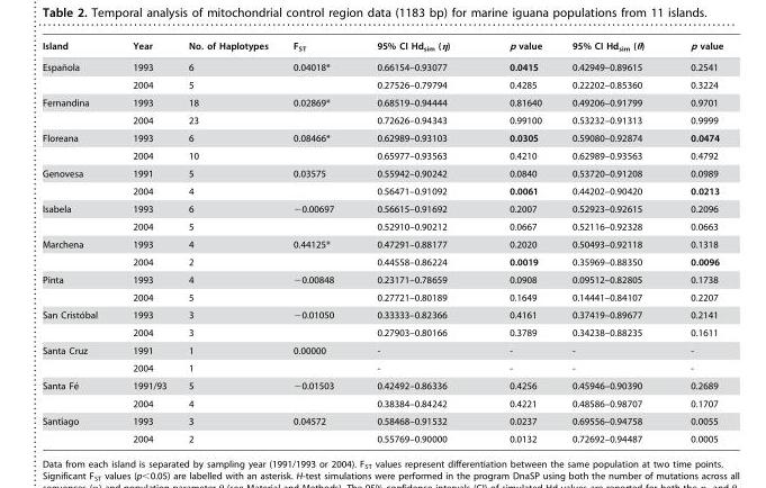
<table><thead><tr><td>Island</td><td>Year</td><td>No. of Haplotypes</td><td>F<sub>ST</sub></td><td>95% CI Hd<sub>sim</sub> (η)</td><td>p value</td><td>95% CI Hd<sub>sim</sub> (θ)</td><td>p value</td></tr></thead><tbody><tr><td rowspan="2">Espan˜ola</td><td>1993</td><td>6</td><td>0.04018*</td><td>0.66154–0.93077</td><td>0.0415</td><td>0.42949–0.89615</td><td>0.2541</td></tr><tr><td>2004</td><td>5</td><td></td><td>0.27526–0.79794</td><td>0.4285</td><td>0.22202–0.85360</td><td>0.3224</td></tr><tr><td rowspan="2">Fernandina</td><td>1993</td><td>18</td><td>0.02869*</td><td>0.68519–0.94444</td><td>0.81640</td><td>0.49206–0.91799</td><td>0.9701</td></tr><tr><td>2004</td><td>23</td><td></td><td>0.72626–0.94343</td><td>0.99100</td><td>0.53232–0.91313</td><td>0.9999</td></tr><tr><td rowspan="2">Floreana</td><td>1993</td><td>6</td><td>0.08466*</td><td>0.62989–0.93103</td><td>0.0305</td><td>0.59080–0.92874</td><td>0.0474</td></tr><tr><td>2004</td><td>10</td><td></td><td>0.65977–0.93563</td><td>0.4210</td><td>0.62989–0.93563</td><td>0.4792</td></tr><tr><td rowspan="2">Genovesa</td><td>1991</td><td>5</td><td>0.03575</td><td>0.55942–0.90242</td><td>0.0840</td><td>0.53720–0.91208</td><td>0.0989</td></tr><tr><td>2004</td><td>4</td><td></td><td>0.56471–0.91092</td><td>0.0061</td><td>0.44202–0.90420</td><td>0.0213</td></tr><tr><td rowspan="2">Isabela</td><td>1993</td><td>6</td><td>−0.00697</td><td>0.56615–0.91692</td><td>0.2007</td><td>0.52923–0.92615</td><td>0.2096</td></tr><tr><td>2004</td><td>5</td><td></td><td>0.52910–0.90212</td><td>0.0667</td><td>0.52116–0.92328</td><td>0.0663</td></tr><tr><td rowspan="2">Marchena</td><td>1993</td><td>4</td><td>0.44125*</td><td>0.47291–0.88177</td><td>0.2020</td><td>0.50493–0.92118</td><td>0.1318</td></tr><tr><td>2004</td><td>2</td><td></td><td>0.44558–0.86224</td><td>0.0019</td><td>0.35969–0.88350</td><td>0.0096</td></tr><tr><td rowspan="2">Pinta</td><td>1993</td><td>4</td><td>−0.00848</td><td>0.23171–0.78659</td><td>0.0908</td><td>0.09512–0.82805</td><td>0.1738</td></tr><tr><td>2004</td><td>5</td><td></td><td>0.27721–0.80189</td><td>0.1649</td><td>0.14441–0.84107</td><td>0.2207</td></tr><tr><td rowspan="2">San Cristo´bal</td><td>1993</td><td>3</td><td>−0.01050</td><td>0.33333–0.82366</td><td>0.4161</td><td>0.37419–0.89677</td><td>0.2141</td></tr><tr><td>2004</td><td>3</td><td></td><td>0.27903–0.80166</td><td>0.3789</td><td>0.34238–0.88235</td><td>0.1611</td></tr><tr><td rowspan="2">Santa Cruz</td><td>1991</td><td>1</td><td>0.00000</td><td>-</td><td>-</td><td>-</td><td>-</td></tr><tr><td>2004</td><td>1</td><td></td><td>-</td><td>-</td><td>-</td><td>-</td></tr><tr><td rowspan="2">Santa Fe´</td><td>1991/93</td><td>5</td><td>−0.01503</td><td>0.42492–0.86336</td><td>0.4256</td><td>0.45946–0.90390</td><td>0.2689</td></tr><tr><td>2004</td><td>4</td><td></td><td>0.38384–0.84242</td><td>0.4221</td><td>0.48586–0.98707</td><td>0.1707</td></tr><tr><td rowspan="2">Santiago</td><td>1993</td><td>3</td><td>0.04572</td><td>0.58468–0.91532</td><td>0.0237</td><td>0.69556–0.94758</td><td>0.0055</td></tr><tr><td>2004</td><td>2</td><td></td><td>0.55769–0.90000</td><td>0.0132</td><td>0.72692–0.94487</td><td>0.0005</td></tr></tbody></table>